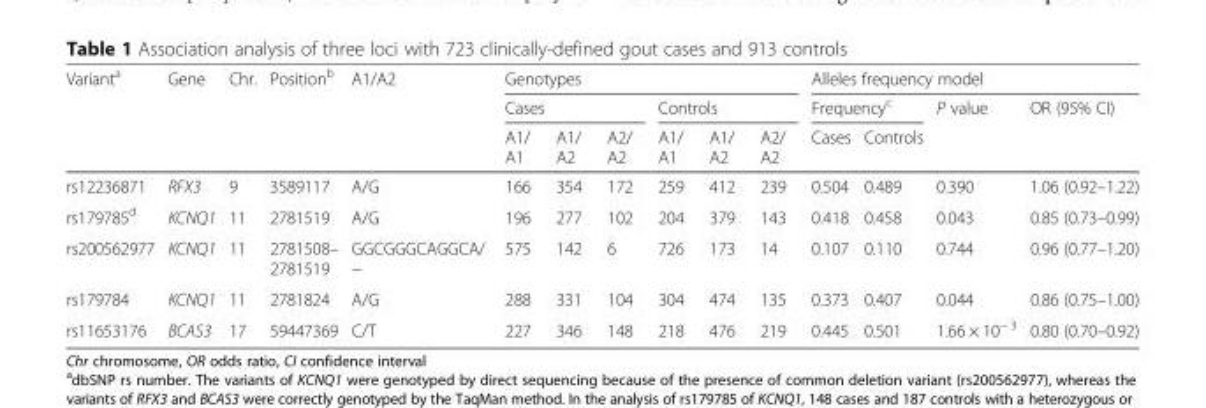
<table><thead><tr><td rowspan="3">Variant<sup>a</sup></td><td rowspan="3">Gene</td><td rowspan="3">Chr.</td><td rowspan="3">Position<sup>b</sup></td><td rowspan="3">A1/A2</td><td colspan="6">Genotypes</td><td colspan="4">Alleles frequency model</td></tr><tr><td colspan="3">Cases</td><td colspan="3">Controls</td><td colspan="2">Frequency<sup>c</sup></td><td rowspan="2">P value</td><td rowspan="2">OR (95% CI)</td></tr><tr><td>A1/ A1</td><td>A1/ A2</td><td>A2/ A2</td><td>A1/ A1</td><td>A1/ A2</td><td>A2/ A2</td><td>Cases</td><td>Controls</td></tr></thead><tbody><tr><td>rs12236871</td><td>RFX3</td><td>9</td><td>3589117</td><td>A/G</td><td>166</td><td>354</td><td>172</td><td>259</td><td>412</td><td>239</td><td>0.504</td><td>0.489</td><td>0.390</td><td>1.06 (0.92–1.22)</td></tr><tr><td>rs179785<sup>d</sup></td><td>KCNQ1</td><td>11</td><td>2781519</td><td>A/G</td><td>196</td><td>277</td><td>102</td><td>204</td><td>379</td><td>143</td><td>0.418</td><td>0.458</td><td>0.043</td><td>0.85 (0.73–0.99)</td></tr><tr><td>rs200562977</td><td>KCNQ1</td><td>11</td><td>2781508– 2781519</td><td>GGCGGGCAGGCA/ −</td><td>575</td><td>142</td><td>6</td><td>726</td><td>173</td><td>14</td><td>0.107</td><td>0.110</td><td>0.744</td><td>0.96 (0.77–1.20)</td></tr><tr><td>rs179784</td><td>KCNQ1</td><td>11</td><td>2781824</td><td>A/G</td><td>288</td><td>331</td><td>104</td><td>304</td><td>474</td><td>135</td><td>0.373</td><td>0.407</td><td>0.044</td><td>0.86 (0.75–1.00)</td></tr><tr><td>rs11653176</td><td>BCAS3</td><td>17</td><td>59447369</td><td>C/T</td><td>227</td><td>346</td><td>148</td><td>218</td><td>476</td><td>219</td><td>0.445</td><td>0.501</td><td>1.66 × 10<sup>− 3</sup></td><td>0.80 (0.70–0.92)</td></tr></tbody></table>